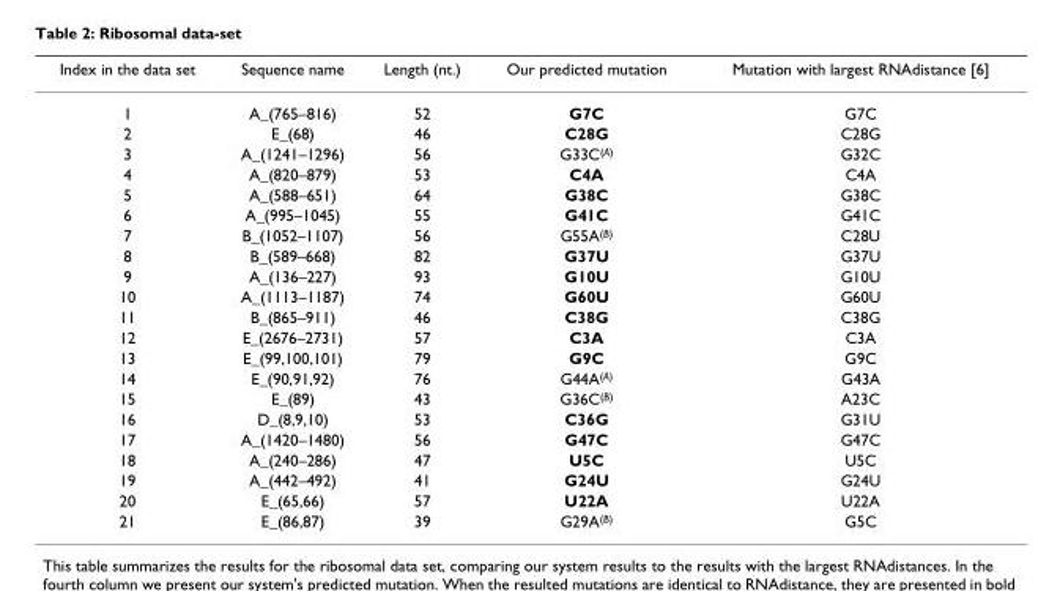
<table><thead><tr><td>Index in the data set</td><td>Sequence name</td><td>Length (nt.)</td><td>Our predicted mutation</td><td>Mutation with largest RNAdistance [6]</td></tr></thead><tbody><tr><td>1</td><td>A_(765–816)</td><td>52</td><td>G7C</td><td>G7C</td></tr><tr><td>2</td><td>E_(68)</td><td>46</td><td>C28G</td><td>C28G</td></tr><tr><td>3</td><td>A_(1241–1296)</td><td>56</td><td>G33C<sup>(A)</sup></td><td>G32C</td></tr><tr><td>4</td><td>A_(820–879)</td><td>53</td><td>C4A</td><td>C4A</td></tr><tr><td>5</td><td>A_(588–651)</td><td>64</td><td>G38C</td><td>G38C</td></tr><tr><td>6</td><td>A_(995–1045)</td><td>55</td><td>G41C</td><td>G41C</td></tr><tr><td>7</td><td>B_(1052–1107)</td><td>56</td><td>G55A<sup>(B)</sup></td><td>C28U</td></tr><tr><td>8</td><td>B_(589–668)</td><td>82</td><td>G37U</td><td>G37U</td></tr><tr><td>9</td><td>A_(136–227)</td><td>93</td><td>G10U</td><td>G10U</td></tr><tr><td>10</td><td>A_(1113–1187)</td><td>74</td><td>G60U</td><td>G60U</td></tr><tr><td>11</td><td>B_(865–911)</td><td>46</td><td>C38G</td><td>C38G</td></tr><tr><td>12</td><td>E_(2676–2731)</td><td>57</td><td>C3A</td><td>C3A</td></tr><tr><td>13</td><td>E_(99,100,101)</td><td>79</td><td>G9C</td><td>G9C</td></tr><tr><td>14</td><td>E_(90,91,92)</td><td>76</td><td>G44A<sup>(A)</sup></td><td>G43A</td></tr><tr><td>15</td><td>E_(89)</td><td>43</td><td>G36C<sup>(B)</sup></td><td>A23C</td></tr><tr><td>16</td><td>D_(8,9,10)</td><td>53</td><td>C36G</td><td>G31U</td></tr><tr><td>17</td><td>A_(1420–1480)</td><td>56</td><td>G47C</td><td>G47C</td></tr><tr><td>18</td><td>A_(240–286)</td><td>47</td><td>U5C</td><td>U5C</td></tr><tr><td>19</td><td>A_(442–492)</td><td>41</td><td>G24U</td><td>G24U</td></tr><tr><td>20</td><td>E_(65,66)</td><td>57</td><td>U22A</td><td>U22A</td></tr><tr><td>21</td><td>E_(86,87)</td><td>39</td><td>G29A<sup>(B)</sup></td><td>G5C</td></tr></tbody></table>